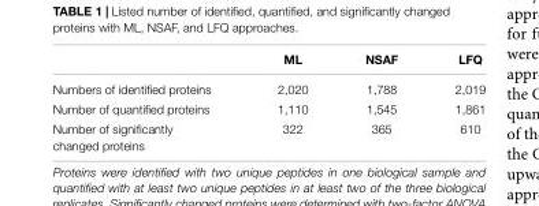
<table><thead><tr><td></td><td>ML</td><td>NSAF</td><td>LFQ</td></tr></thead><tbody><tr><td>Numbers of identified proteins</td><td>2,020</td><td>1,788</td><td>2,019</td></tr><tr><td>Number of quantified proteins</td><td>1,110</td><td>1,545</td><td>1,861</td></tr><tr><td>Number of significantly changed proteins</td><td>322</td><td>365</td><td>610</td></tr></tbody></table>